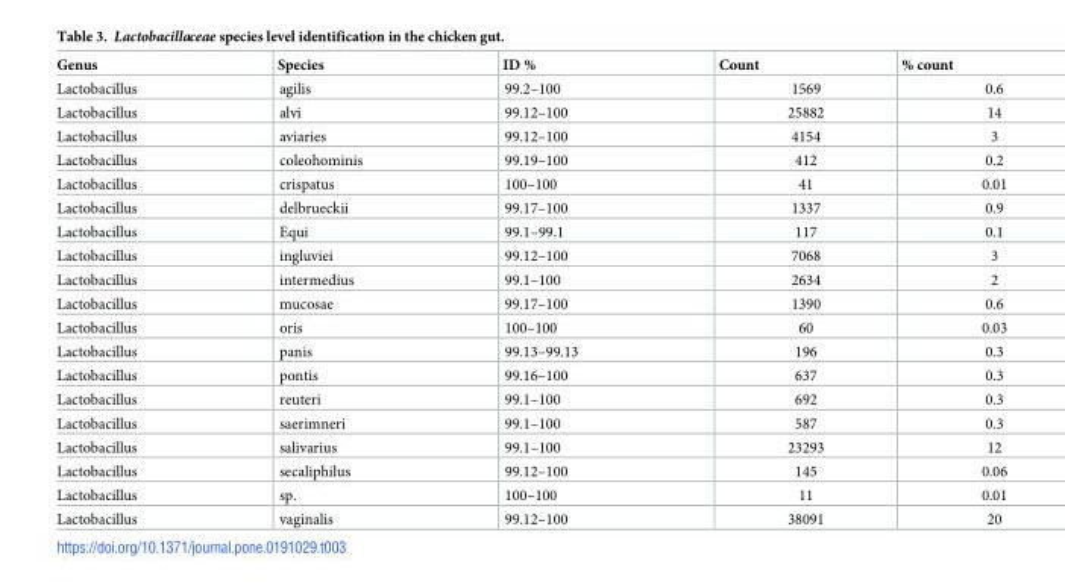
<table><thead><tr><td>Genus</td><td>Species</td><td>ID %</td><td>Count</td><td>% count</td></tr></thead><tbody><tr><td>Lactobacillus</td><td>agilis</td><td>99.2–100</td><td>1569</td><td>0.6</td></tr><tr><td>Lactobacillus</td><td>alvi</td><td>99.12–100</td><td>25882</td><td>14</td></tr><tr><td>Lactobacillus</td><td>aviaries</td><td>99.12–100</td><td>4154</td><td>3</td></tr><tr><td>Lactobacillus</td><td>coleohominis</td><td>99.19–100</td><td>412</td><td>0.2</td></tr><tr><td>Lactobacillus</td><td>crispatus</td><td>100–100</td><td>41</td><td>0.01</td></tr><tr><td>Lactobacillus</td><td>delbrueckii</td><td>99.17–100</td><td>1337</td><td>0.9</td></tr><tr><td>Lactobacillus</td><td>Equi</td><td>99.1–99.1</td><td>117</td><td>0.1</td></tr><tr><td>Lactobacillus</td><td>ingluviei</td><td>99.12–100</td><td>7068</td><td>3</td></tr><tr><td>Lactobacillus</td><td>intermedius</td><td>99.1–100</td><td>2634</td><td>2</td></tr><tr><td>Lactobacillus</td><td>mucosae</td><td>99.17–100</td><td>1390</td><td>0.6</td></tr><tr><td>Lactobacillus</td><td>oris</td><td>100–100</td><td>60</td><td>0.03</td></tr><tr><td>Lactobacillus</td><td>panis</td><td>99.13–99.13</td><td>196</td><td>0.3</td></tr><tr><td>Lactobacillus</td><td>pontis</td><td>99.16–100</td><td>637</td><td>0.3</td></tr><tr><td>Lactobacillus</td><td>reuteri</td><td>99.1–100</td><td>692</td><td>0.3</td></tr><tr><td>Lactobacillus</td><td>saerimneri</td><td>99.1–100</td><td>587</td><td>0.3</td></tr><tr><td>Lactobacillus</td><td>salivarius</td><td>99.1–100</td><td>23293</td><td>12</td></tr><tr><td>Lactobacillus</td><td>secaliphilus</td><td>99.12–100</td><td>145</td><td>0.06</td></tr><tr><td>Lactobacillus</td><td>sp.</td><td>100–100</td><td>11</td><td>0.01</td></tr><tr><td>Lactobacillus</td><td>vaginalis</td><td>99.12–100</td><td>38091</td><td>20</td></tr></tbody></table>